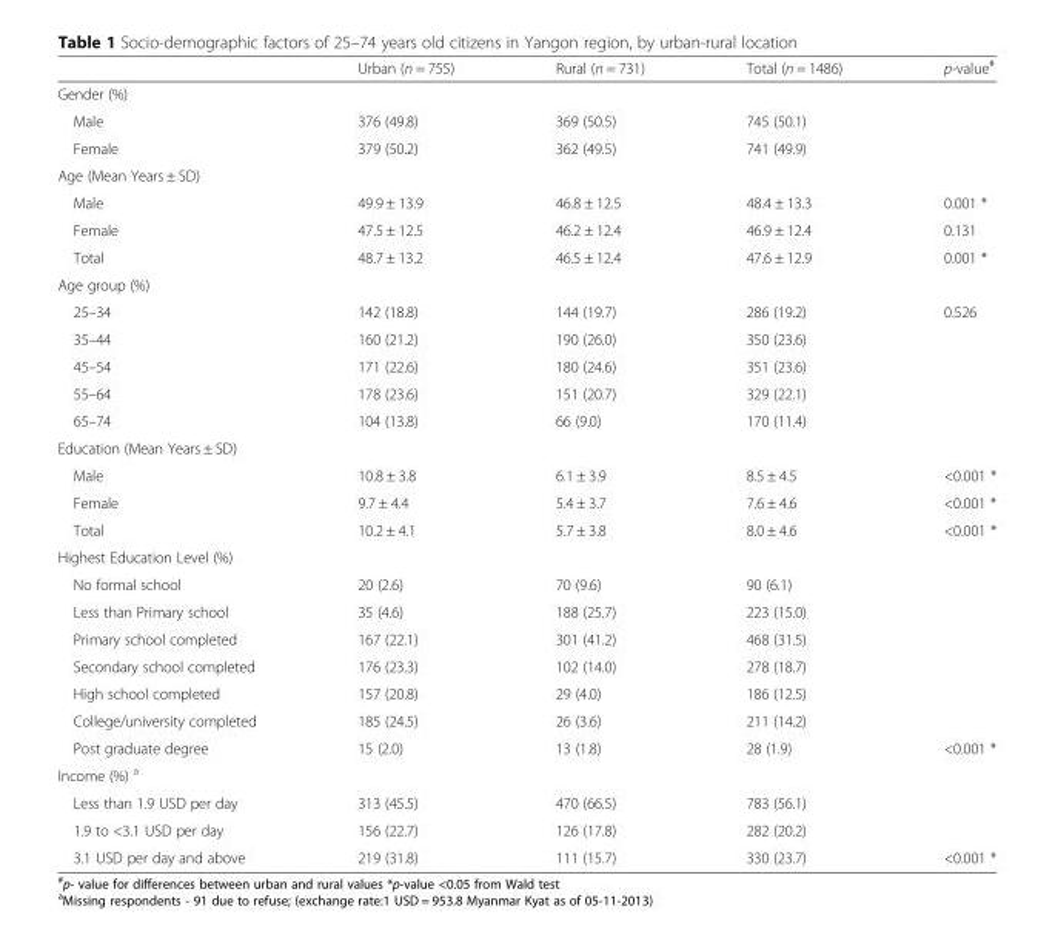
<table><thead><tr><td></td><td>Urban (n = 755)</td><td>Rural (n = 731)</td><td>Total (n = 1486)</td><td>p-value<sup>#</sup></td></tr></thead><tbody><tr><td colspan="5">Gender (%)</td></tr><tr><td>Male</td><td>376 (49.8)</td><td>369 (50.5)</td><td>745 (50.1)</td><td></td></tr><tr><td>Female</td><td>379 (50.2)</td><td>362 (49.5)</td><td>741 (49.9)</td><td></td></tr><tr><td colspan="5">Age (Mean Years ± SD)</td></tr><tr><td>Male</td><td>49.9 ± 13.9</td><td>46.8 ± 12.5</td><td>48.4 ± 13.3</td><td>0.001 *</td></tr><tr><td>Female</td><td>47.5 ± 12.5</td><td>46.2 ± 12.4</td><td>46.9 ± 12.4</td><td>0.131</td></tr><tr><td>Total</td><td>48.7 ± 13.2</td><td>46.5 ± 12.4</td><td>47.6 ± 12.9</td><td>0.001 *</td></tr><tr><td colspan="5">Age group (%)</td></tr><tr><td>25–34</td><td>142 (18.8)</td><td>144 (19.7)</td><td>286 (19.2)</td><td rowspan="5">0.526</td></tr><tr><td>35–44</td><td>160 (21.2)</td><td>190 (26.0)</td><td>350 (23.6)</td></tr><tr><td>45–54</td><td>171 (22.6)</td><td>180 (24.6)</td><td>351 (23.6)</td></tr><tr><td>55–64</td><td>178 (23.6)</td><td>151 (20.7)</td><td>329 (22.1)</td></tr><tr><td>65–74</td><td>104 (13.8)</td><td>66 (9.0)</td><td>170 (11.4)</td></tr><tr><td colspan="5">Education (Mean Years ± SD)</td></tr><tr><td>Male</td><td>10.8 ± 3.8</td><td>6.1 ± 3.9</td><td>8.5 ± 4.5</td><td>&lt;0.001 *</td></tr><tr><td>Female</td><td>9.7 ± 4.4</td><td>5.4 ± 3.7</td><td>7.6 ± 4.6</td><td>&lt;0.001 *</td></tr><tr><td>Total</td><td>10.2 ± 4.1</td><td>5.7 ± 3.8</td><td>8.0 ± 4.6</td><td>&lt;0.001 *</td></tr><tr><td colspan="5">Highest Education Level (%)</td></tr><tr><td>No formal school</td><td>20 (2.6)</td><td>70 (9.6)</td><td>90 (6.1)</td><td></td></tr><tr><td>Less than Primary school</td><td>35 (4.6)</td><td>188 (25.7)</td><td>223 (15.0)</td><td></td></tr><tr><td>Primary school completed</td><td>167 (22.1)</td><td>301 (41.2)</td><td>468 (31.5)</td><td></td></tr><tr><td>Secondary school completed</td><td>176 (23.3)</td><td>102 (14.0)</td><td>278 (18.7)</td><td></td></tr><tr><td>High school completed</td><td>157 (20.8)</td><td>29 (4.0)</td><td>186 (12.5)</td><td></td></tr><tr><td>College/university completed</td><td>185 (24.5)</td><td>26 (3.6)</td><td>211 (14.2)</td><td></td></tr><tr><td>Post graduate degree</td><td>15 (2.0)</td><td>13 (1.8)</td><td>28 (1.9)</td><td>&lt;0.001 *</td></tr><tr><td colspan="5">Income (%) <sup>a</sup></td></tr><tr><td>Less than 1.9 USD per day</td><td>313 (45.5)</td><td>470 (66.5)</td><td>783 (56.1)</td><td></td></tr><tr><td>1.9 to &lt;3.1 USD per day</td><td>156 (22.7)</td><td>126 (17.8)</td><td>282 (20.2)</td><td></td></tr><tr><td>3.1 USD per day and above</td><td>219 (31.8)</td><td>111 (15.7)</td><td>330 (23.7)</td><td>&lt;0.001 *</td></tr></tbody></table>